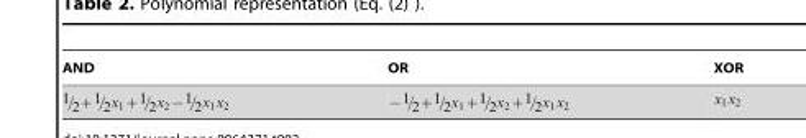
<table><thead><tr><td>AND</td><td>OR</td><td>XOR</td></tr></thead><tbody></tbody></table>